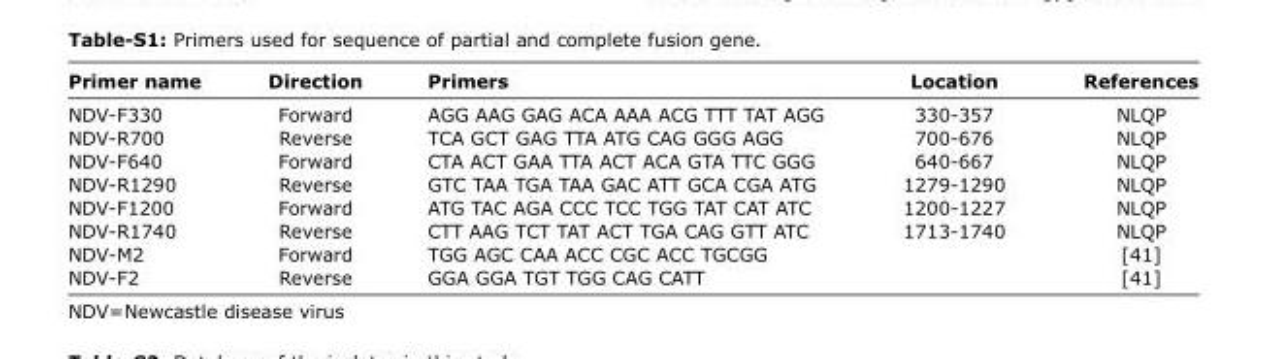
<table><thead><tr><td>Primer name</td><td>Direction</td><td>Primers</td><td>Location</td><td>References</td></tr></thead><tbody><tr><td>NDV-F330</td><td>Forward</td><td>AGG AAG GAG ACA AAA ACG TTT TAT AGG</td><td>330-357</td><td>NLQP</td></tr><tr><td>NDV-R700</td><td>Reverse</td><td>TCA GCT GAG TTA ATG CAG GGG AGG</td><td>700-676</td><td>NLQP</td></tr><tr><td>NDV-F640</td><td>Forward</td><td>CTA ACT GAA TTA ACT ACA GTA TTC GGG</td><td>640-667</td><td>NLQP</td></tr><tr><td>NDV-R1290</td><td>Reverse</td><td>GTC TAA TGA TAA GAC ATT GCA CGA ATG</td><td>1279-1290</td><td>NLQP</td></tr><tr><td>NDV-F1200</td><td>Forward</td><td>ATG TAC AGA CCC TCC TGG TAT CAT ATC</td><td>1200-1227</td><td>NLQP</td></tr><tr><td>NDV-R1740</td><td>Reverse</td><td>CTT AAG TCT TAT ACT TGA CAG GTT ATC</td><td>1713-1740</td><td>NLQP</td></tr><tr><td>NDV-M2</td><td>Forward</td><td>TGG AGC CAA ACC CGC ACC TGCGG</td><td></td><td>[41]</td></tr><tr><td>NDV-F2</td><td>Reverse</td><td>GGA GGA TGT TGG CAG CATT</td><td></td><td>[41]</td></tr></tbody></table>